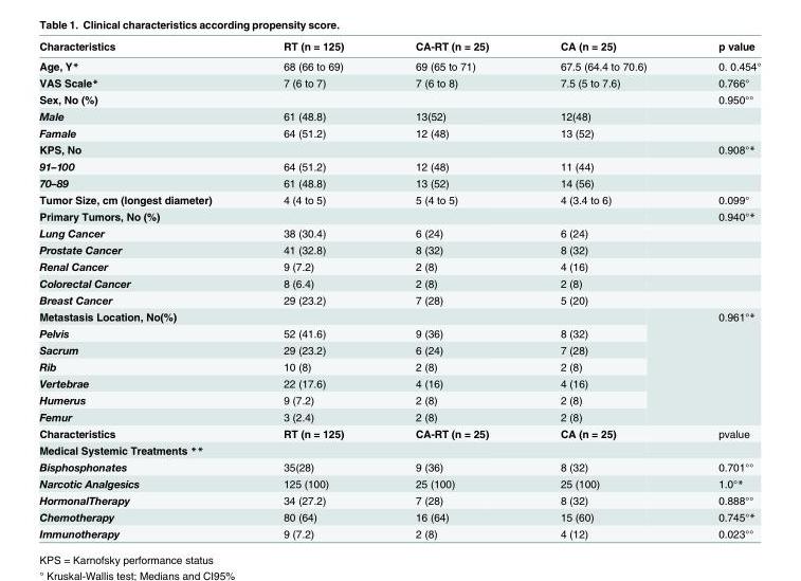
<table><thead><tr><td>Characteristics</td><td>RT (n = 125)</td><td>CA-RT (n = 25)</td><td>CA (n = 25)</td><td>p value</td></tr></thead><tbody><tr><td>Age, Y*</td><td>68 (66 to 69)</td><td>69 (65 to 71)</td><td>67.5 (64.4 to 70.6)</td><td>0. 0.454°</td></tr><tr><td>VAS Scale*</td><td>7 (6 to 7)</td><td>7 (6 to 8)</td><td>7.5 (5 to 7.6)</td><td>0.766°</td></tr><tr><td>Sex, No (%)</td><td></td><td></td><td></td><td>0.950°°</td></tr><tr><td>Male</td><td>61 (48.8)</td><td>13(52)</td><td>12(48)</td><td></td></tr><tr><td>Famale</td><td>64 (51.2)</td><td>12 (48)</td><td>13 (52)</td><td></td></tr><tr><td>KPS, No</td><td></td><td></td><td></td><td>0.908°*</td></tr><tr><td>91–100</td><td>64 (51.2)</td><td>12 (48)</td><td>11 (44)</td><td></td></tr><tr><td>70–89</td><td>61 (48.8)</td><td>13 (52)</td><td>14 (56)</td><td></td></tr><tr><td>Tumor Size, cm (longest diameter)</td><td>4 (4 to 5)</td><td>5 (4 to 5)</td><td>4 (3.4 to 6)</td><td>0.099°</td></tr><tr><td>Primary Tumors, No (%)</td><td></td><td></td><td></td><td>0.940°*</td></tr><tr><td>Lung Cancer</td><td>38 (30.4)</td><td>6 (24)</td><td>6 (24)</td><td></td></tr><tr><td>Prostate Cancer</td><td>41 (32.8)</td><td>8 (32)</td><td>8 (32)</td><td></td></tr><tr><td>Renal Cancer</td><td>9 (7.2)</td><td>2 (8)</td><td>4 (16)</td><td></td></tr><tr><td>Colorectal Cancer</td><td>8 (6.4)</td><td>2 (8)</td><td>2 (8)</td><td></td></tr><tr><td>Breast Cancer</td><td>29 (23.2)</td><td>7 (28)</td><td>5 (20)</td><td></td></tr><tr><td colspan="4">Metastasis Location, No(%)</td><td rowspan="7">0.961°*</td></tr><tr><td>Pelvis</td><td>52 (41.6)</td><td>9 (36)</td><td>8 (32)</td></tr><tr><td>Sacrum</td><td>29 (23.2)</td><td>6 (24)</td><td>7 (28)</td></tr><tr><td>Rib</td><td>10 (8)</td><td>2 (8)</td><td>2 (8)</td></tr><tr><td>Vertebrae</td><td>22 (17.6)</td><td>4 (16)</td><td>4 (16)</td></tr><tr><td>Humerus</td><td>9 (7.2)</td><td>2 (8)</td><td>2 (8)</td></tr><tr><td>Femur</td><td>3 (2.4)</td><td>2 (8)</td><td>2 (8)</td></tr><tr><td>Characteristics</td><td>RT (n = 125)</td><td>CA-RT (n = 25)</td><td>CA (n = 25)</td><td>pvalue</td></tr><tr><td colspan="5">Medical Systemic Treatments **</td></tr><tr><td>Bisphosphonates</td><td>35(28)</td><td>9 (36)</td><td>8 (32)</td><td>0.701°°</td></tr><tr><td>Narcotic Analgesics</td><td>125 (100)</td><td>25 (100)</td><td>25 (100)</td><td>1.0°*</td></tr><tr><td>HormonalTherapy</td><td>34 (27.2)</td><td>7 (28)</td><td>8 (32)</td><td>0.888°°</td></tr><tr><td>Chemotherapy</td><td>80 (64)</td><td>16 (64)</td><td>15 (60)</td><td>0.745°*</td></tr><tr><td>Immunotherapy</td><td>9 (7.2)</td><td>2 (8)</td><td>4 (12)</td><td>0.023°°</td></tr></tbody></table>